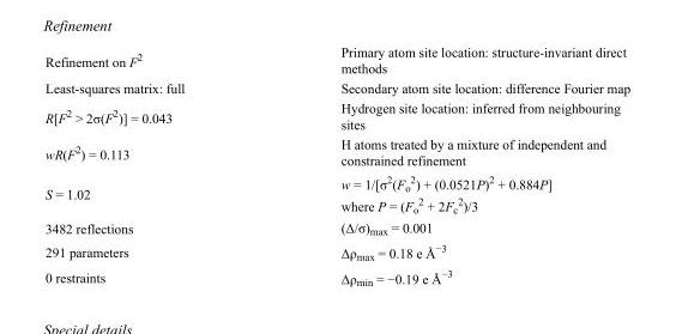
<table><tbody><tr><td>Refinement on F<sup>2</sup></td><td>Primary atom site location: structure-invariant direct methods</td></tr><tr><td>Least-squares matrix: full</td><td>Secondary atom site location: difference Fourier map</td></tr><tr><td>R[F<sup>2</sup> &gt; 2σ(F<sup>2</sup>)] = 0.043</td><td>Hydrogen site location: inferred from neighbouring sites</td></tr><tr><td>wR(F<sup>2</sup>) = 0.113</td><td>H atoms treated by a mixture of independent and constrained refinement</td></tr><tr><td>S = 1.02</td><td>w = 1/[σ<sup>2</sup>(F<sub>o</sub> <sup>2</sup>) + (0.0521P)<sup>2</sup> + 0.884P] where P = (F<sub>o</sub> <sup>2</sup> + 2F<sub>c</sub> <sup>2</sup>)/3</td></tr><tr><td>3482 reflections</td><td>(Δ/σ)<sub>max</sub> = 0.001</td></tr><tr><td>291 parameters</td><td>Δρ<sub>max</sub> = 0.18 e Å<sup>−3</sup></td></tr><tr><td>0 restraints</td><td>Δρ<sub>min</sub> = −0.19 e Å<sup>−3</sup></td></tr></tbody></table>